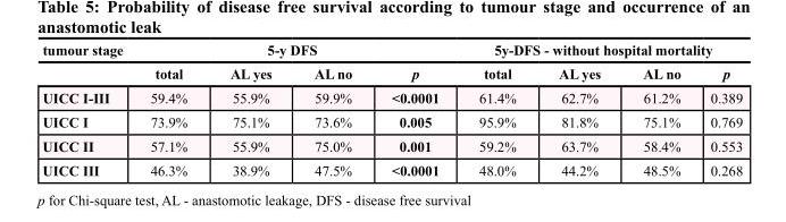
<table><thead><tr><td rowspan="2">tumour stage</td><td colspan="4">5-y DFS</td><td colspan="4">5y-DFS - without hospital mortality</td></tr><tr><td>total</td><td>AL yes</td><td>AL no</td><td>p</td><td>total</td><td>AL yes</td><td>AL no</td><td>p</td></tr></thead><tbody><tr><td>UICC I-III</td><td>59.4%</td><td>55.9%</td><td>59.9%</td><td>&lt;0.0001</td><td>61.4%</td><td>62.7%</td><td>61.2%</td><td>0.389</td></tr><tr><td>UICC I</td><td>73.9%</td><td>75.1%</td><td>73.6%</td><td>0.005</td><td>95.9%</td><td>81.8%</td><td>75.1%</td><td>0.769</td></tr><tr><td>UICC II</td><td>57.1%</td><td>55.9%</td><td>75.0%</td><td>0.001</td><td>59.2%</td><td>63.7%</td><td>58.4%</td><td>0.553</td></tr><tr><td>UICC III</td><td>46.3%</td><td>38.9%</td><td>47.5%</td><td>&lt;0.0001</td><td>48.0%</td><td>44.2%</td><td>48.5%</td><td>0.268</td></tr></tbody></table>